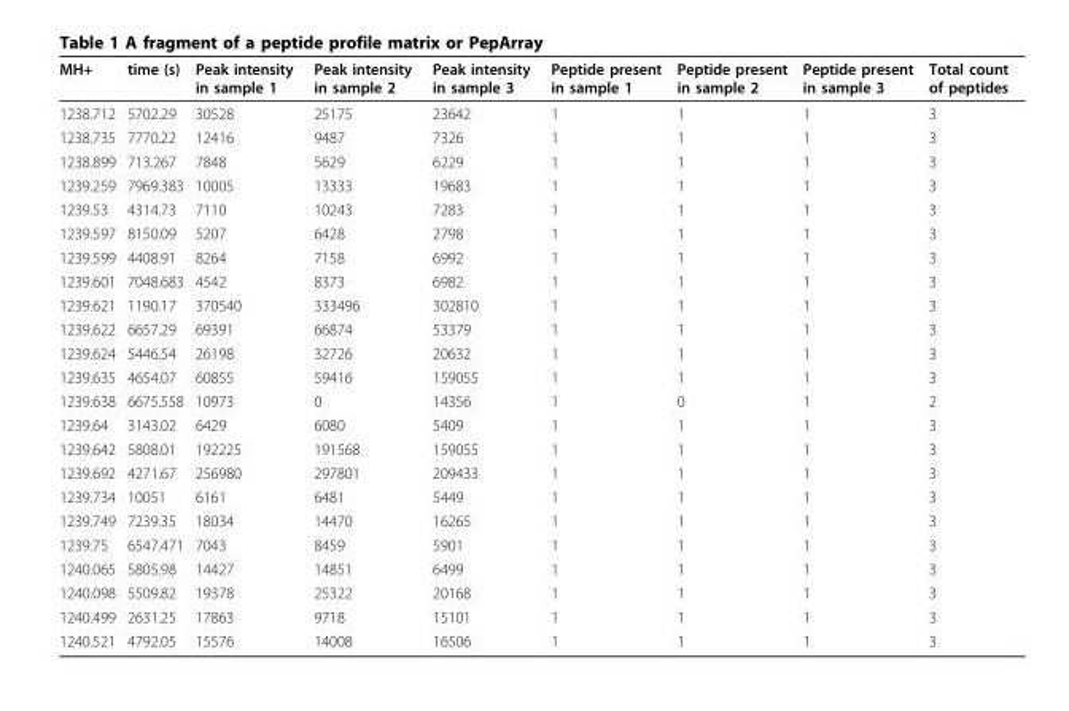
<table><thead><tr><td>MH+</td><td>time (s)</td><td>Peak intensity in sample 1</td><td>Peak intensity in sample 2</td><td>Peak intensity in sample 3</td><td>Peptide present in sample 1</td><td>Peptide present in sample 2</td><td>Peptide present in sample 3</td><td>Total count of peptides</td></tr></thead><tbody><tr><td>1238.712</td><td>5702.29</td><td>30528</td><td>25175</td><td>23642</td><td>1</td><td>1</td><td>1</td><td>3</td></tr><tr><td>1238.735</td><td>7770.22</td><td>12416</td><td>9487</td><td>7326</td><td>1</td><td>1</td><td>1</td><td>3</td></tr><tr><td>1238.899</td><td>713.267</td><td>7848</td><td>5629</td><td>6229</td><td>1</td><td>1</td><td>1</td><td>3</td></tr><tr><td>1239.259</td><td>7969.383</td><td>10005</td><td>13333</td><td>19683</td><td>1</td><td>1</td><td>1</td><td>3</td></tr><tr><td>1239.53</td><td>4314.73</td><td>7110</td><td>10243</td><td>7283</td><td>1</td><td>1</td><td>1</td><td>3</td></tr><tr><td>1239.597</td><td>8150.09</td><td>5207</td><td>6428</td><td>2798</td><td>1</td><td>1</td><td>1</td><td>3</td></tr><tr><td>1239.599</td><td>4408.91</td><td>8264</td><td>7158</td><td>6992</td><td>1</td><td>1</td><td>1</td><td>3</td></tr><tr><td>1239.601</td><td>7048.683</td><td>4542</td><td>8373</td><td>6982</td><td>1</td><td>1</td><td>1</td><td>3</td></tr><tr><td>1239.621</td><td>1190.17</td><td>370540</td><td>333496</td><td>302810</td><td>1</td><td>1</td><td>1</td><td>3</td></tr><tr><td>1239.622</td><td>6657.29</td><td>69391</td><td>66874</td><td>53379</td><td>1</td><td>1</td><td>1</td><td>3</td></tr><tr><td>1239.624</td><td>5446.54</td><td>26198</td><td>32726</td><td>20632</td><td>1</td><td>1</td><td>1</td><td>3</td></tr><tr><td>1239.635</td><td>4654.07</td><td>60855</td><td>59416</td><td>159055</td><td>1</td><td>1</td><td>1</td><td>3</td></tr><tr><td>1239.638</td><td>6675.558</td><td>10973</td><td>0</td><td>14356</td><td>1</td><td>0</td><td>1</td><td>2</td></tr><tr><td>1239.64</td><td>3143.02</td><td>6429</td><td>6080</td><td>5409</td><td>1</td><td>1</td><td>1</td><td>3</td></tr><tr><td>1239.642</td><td>5808.01</td><td>192225</td><td>191568</td><td>159055</td><td>1</td><td>1</td><td>1</td><td>3</td></tr><tr><td>1239.692</td><td>4271.67</td><td>256980</td><td>297801</td><td>209433</td><td>1</td><td>1</td><td>1</td><td>3</td></tr><tr><td>1239.734</td><td>10051</td><td>6161</td><td>6481</td><td>5449</td><td>1</td><td>1</td><td>1</td><td>3</td></tr><tr><td>1239.749</td><td>7239.35</td><td>18034</td><td>14470</td><td>16265</td><td>1</td><td>1</td><td>1</td><td>3</td></tr><tr><td>1239.75</td><td>6547.471</td><td>7043</td><td>8459</td><td>5901</td><td>1</td><td>1</td><td>1</td><td>3</td></tr><tr><td>1240.065</td><td>5805.98</td><td>14427</td><td>14851</td><td>6499</td><td>1</td><td>1</td><td>1</td><td>3</td></tr><tr><td>1240.098</td><td>5509.82</td><td>19378</td><td>25322</td><td>20168</td><td>1</td><td>1</td><td>1</td><td>3</td></tr><tr><td>1240.499</td><td>2631.25</td><td>17863</td><td>9718</td><td>15101</td><td>1</td><td>1</td><td>1</td><td>3</td></tr><tr><td>1240.521</td><td>4792.05</td><td>15576</td><td>14008</td><td>16506</td><td>1</td><td>1</td><td>1</td><td>3</td></tr></tbody></table>